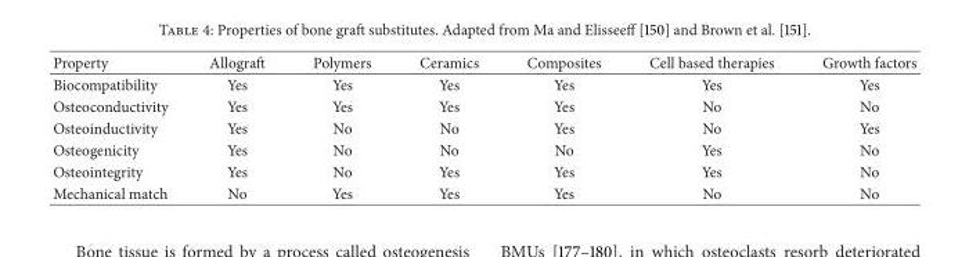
<table><thead><tr><td>Property</td><td>Allograft</td><td>Polymers</td><td>Ceramics</td><td>Composites</td><td>Cell based therapies</td><td>Growth factors</td></tr></thead><tbody><tr><td>Biocompatibility</td><td>Yes</td><td>Yes</td><td>Yes</td><td>Yes</td><td>Yes</td><td>Yes</td></tr><tr><td>Osteoconductivity</td><td>Yes</td><td>Yes</td><td>Yes</td><td>Yes</td><td>No</td><td>No</td></tr><tr><td>Osteoinductivity</td><td>Yes</td><td>No</td><td>No</td><td>Yes</td><td>No</td><td>Yes</td></tr><tr><td>Osteogenicity</td><td>Yes</td><td>No</td><td>No</td><td>No</td><td>Yes</td><td>No</td></tr><tr><td>Osteointegrity</td><td>Yes</td><td>No</td><td>Yes</td><td>Yes</td><td>Yes</td><td>No</td></tr><tr><td>Mechanical match</td><td>No</td><td>Yes</td><td>Yes</td><td>Yes</td><td>No</td><td>No</td></tr></tbody></table>